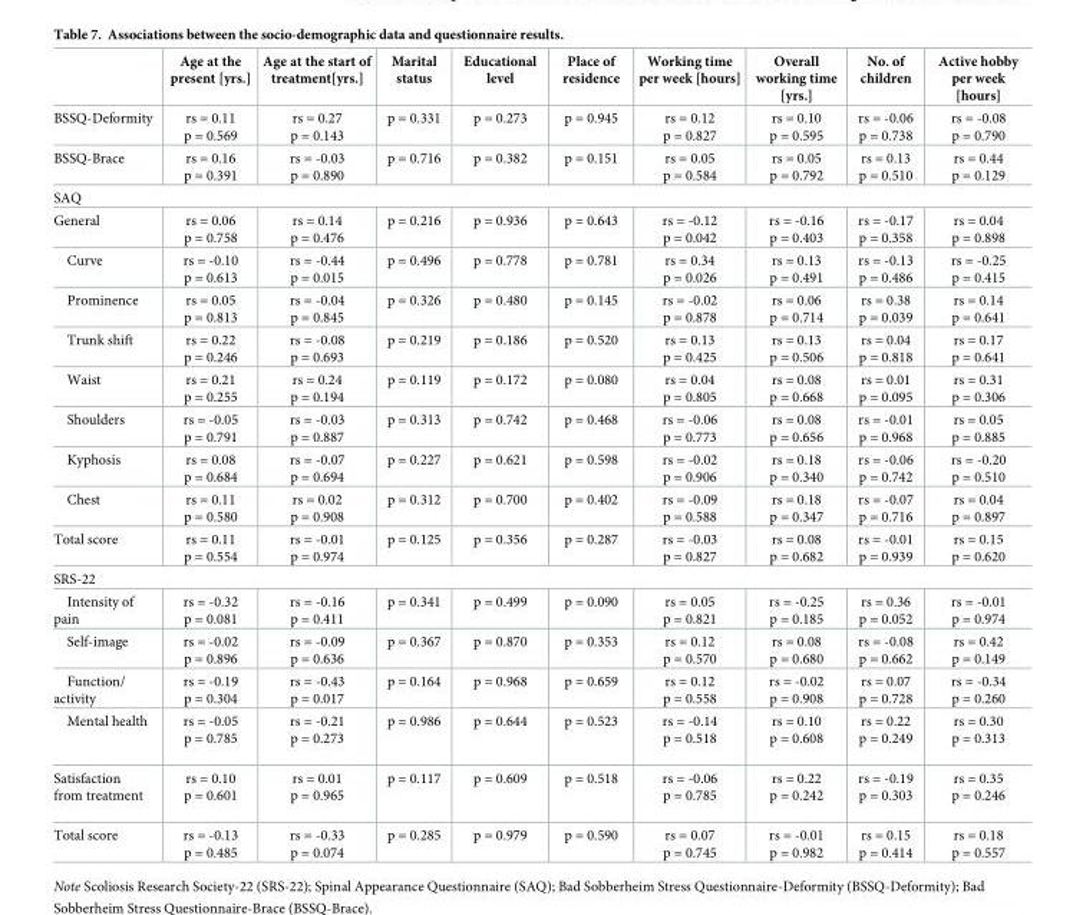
<table><thead><tr><td></td><td>Age at the present [yrs.]</td><td>Age at the start of treatment[yrs.]</td><td>Marital status</td><td>Educational level</td><td>Place of residence</td><td>Working time per week [hours]</td><td>Overall working time [yrs.]</td><td>No. of children</td><td>Active hobby per week [hours]</td></tr></thead><tbody><tr><td>BSSQ-Deformity</td><td>rs = 0.11 p = 0.569</td><td>rs = 0.27 p = 0.143</td><td>p = 0.331</td><td>p = 0.273</td><td>p = 0.945</td><td>rs = 0.12 p = 0.827</td><td>rs = 0.10 p = 0.595</td><td>rs = -0.06 p = 0.738</td><td>rs = -0.08 p = 0.790</td></tr><tr><td>BSSQ-Brace</td><td>rs = 0.16 p = 0.391</td><td>rs = -0.03 p = 0.890</td><td>p = 0.716</td><td>p = 0.382</td><td>p = 0.151</td><td>rs = 0.05 p = 0.584</td><td>rs = 0.05 p = 0.792</td><td>rs = 0.13 p = 0.510</td><td>rs = 0.44 p = 0.129</td></tr><tr><td colspan="10">SAQ</td></tr><tr><td>General</td><td>rs = 0.06 p = 0.758</td><td>rs = 0.14 p = 0.476</td><td>p = 0.216</td><td>p = 0.936</td><td>p = 0.643</td><td>rs = -0.12 p = 0.042</td><td>rs = -0.16 p = 0.403</td><td>rs = -0.17 p = 0.358</td><td>rs = 0.04 p = 0.898</td></tr><tr><td>Curve</td><td>rs = -0.10 p = 0.613</td><td>rs = -0.44 p = 0.015</td><td>p = 0.496</td><td>p = 0.778</td><td>p = 0.781</td><td>rs = 0.34 p = 0.026</td><td>rs = 0.13 p = 0.491</td><td>rs = -0.13 p = 0.486</td><td>rs = -0.25 p = 0.415</td></tr><tr><td>Prominence</td><td>rs = 0.05 p = 0.813</td><td>rs = -0.04 p = 0.845</td><td>p = 0.326</td><td>p = 0.480</td><td>p = 0.145</td><td>rs = -0.02 p = 0.878</td><td>rs = 0.06 p = 0.714</td><td>rs = 0.38 p = 0.039</td><td>rs = 0.14 p = 0.641</td></tr><tr><td>Trunk shift</td><td>rs = 0.22 p = 0.246</td><td>rs = -0.08 p = 0.693</td><td>p = 0.219</td><td>p = 0.186</td><td>p = 0.520</td><td>rs = 0.13 p = 0.425</td><td>rs = 0.13 p = 0.506</td><td>rs = 0.04 p = 0.818</td><td>rs = 0.17 p = 0.641</td></tr><tr><td>Waist</td><td>rs = 0.21 p = 0.255</td><td>rs = 0.24 p = 0.194</td><td>p = 0.119</td><td>p = 0.172</td><td>p = 0.080</td><td>rs = 0.04 p = 0.805</td><td>rs = 0.08 p = 0.668</td><td>rs = 0.01 p = 0.095</td><td>rs = 0.31 p = 0.306</td></tr><tr><td>Shoulders</td><td>rs = -0.05 p = 0.791</td><td>rs = -0.03 p = 0.887</td><td>p = 0.313</td><td>p = 0.742</td><td>p = 0.468</td><td>rs = -0.06 p = 0.773</td><td>rs = 0.08 p = 0.656</td><td>rs = -0.01 p = 0.968</td><td>rs = 0.05 p = 0.885</td></tr><tr><td>Kyphosis</td><td>rs = 0.08 p = 0.684</td><td>rs = -0.07 p = 0.694</td><td>p = 0.227</td><td>p = 0.621</td><td>p = 0.598</td><td>rs = -0.02 p = 0.906</td><td>rs = 0.18 p = 0.340</td><td>rs = -0.06 p = 0.742</td><td>rs = -0.20 p = 0.510</td></tr><tr><td>Chest</td><td>rs = 0.11 p = 0.580</td><td>rs = 0.02 p = 0.908</td><td>p = 0.312</td><td>p = 0.700</td><td>p = 0.402</td><td>rs = -0.09 p = 0.588</td><td>rs = 0.18 p = 0.347</td><td>rs = -0.07 p = 0.716</td><td>rs = 0.04 p = 0.897</td></tr><tr><td>Total score</td><td>rs = 0.11 p = 0.554</td><td>rs = -0.01 p = 0.974</td><td>p = 0.125</td><td>p = 0.356</td><td>p = 0.287</td><td>rs = -0.03 p = 0.827</td><td>rs = 0.08 p = 0.682</td><td>rs = -0.01 p = 0.939</td><td>rs = 0.15 p = 0.620</td></tr><tr><td colspan="10">SRS-22</td></tr><tr><td>Intensity of pain</td><td>rs = -0.32 p = 0.081</td><td>rs = -0.16 p = 0.411</td><td>p = 0.341</td><td>p = 0.499</td><td>p = 0.090</td><td>rs = 0.05 p = 0.821</td><td>rs = -0.25 p = 0.185</td><td>rs = 0.36 p = 0.052</td><td>rs = -0.01 p = 0.974</td></tr><tr><td>Self-image</td><td>rs = -0.02 p = 0.896</td><td>rs = -0.09 p = 0.636</td><td>p = 0.367</td><td>p = 0.870</td><td>p = 0.353</td><td>rs = 0.12 p = 0.570</td><td>rs = 0.08 p = 0.680</td><td>rs = -0.08 p = 0.662</td><td>rs = 0.42 p = 0.149</td></tr><tr><td>Function/ activity</td><td>rs = -0.19 p = 0.304</td><td>rs = -0.43 p = 0.017</td><td>p = 0.164</td><td>p = 0.968</td><td>p = 0.659</td><td>rs = 0.12 p = 0.558</td><td>rs = -0.02 p = 0.908</td><td>rs = 0.07 p = 0.728</td><td>rs = -0.34 p = 0.260</td></tr><tr><td>Mental health</td><td>rs = -0.05 p = 0.785</td><td>rs = -0.21 p = 0.273</td><td>p = 0.986</td><td>p = 0.644</td><td>p = 0.523</td><td>rs = -0.14 p = 0.518</td><td>rs = 0.10 p = 0.608</td><td>rs = 0.22 p = 0.249</td><td>rs = 0.30 p = 0.313</td></tr><tr><td>Satisfaction from treatment</td><td>rs = 0.10 p = 0.601</td><td>rs = 0.01 p = 0.965</td><td>p = 0.117</td><td>p = 0.609</td><td>p = 0.518</td><td>rs = -0.06 p = 0.785</td><td>rs = 0.22 p = 0.242</td><td>rs = -0.19 p = 0.303</td><td>rs = 0.35 p = 0.246</td></tr><tr><td>Total score</td><td>rs = -0.13 p = 0.485</td><td>rs = -0.33 p = 0.074</td><td>p = 0.285</td><td>p = 0.979</td><td>p = 0.590</td><td>rs = 0.07 p = 0.745</td><td>rs = -0.01 p = 0.982</td><td>rs = 0.15 p = 0.414</td><td>rs = 0.18 p = 0.557</td></tr></tbody></table>